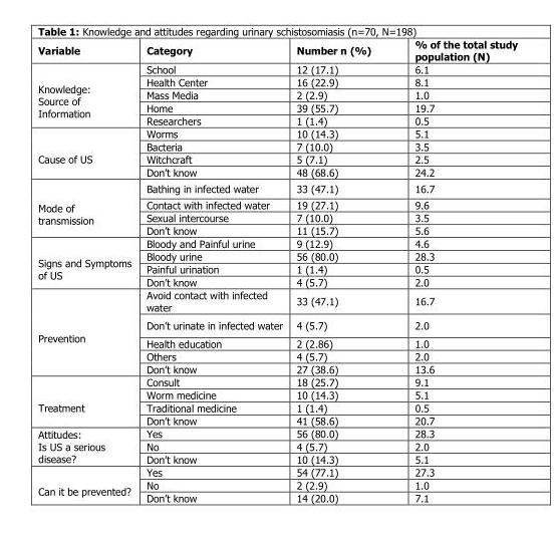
<table><thead><tr><td>Variable</td><td>Category</td><td>Number n (%)</td><td>% of the total study population (N)</td></tr></thead><tbody><tr><td rowspan="5">Knowledge: Source of Information</td><td>School</td><td>12 (17.1)</td><td>6.1</td></tr><tr><td>Health Center</td><td>16 (22.9)</td><td>8.1</td></tr><tr><td>Mass Media</td><td>2 (2.9)</td><td>1.0</td></tr><tr><td>Home</td><td>39 (55.7)</td><td>19.7</td></tr><tr><td>Researchers</td><td>1 (1.4)</td><td>0.5</td></tr><tr><td rowspan="4">Cause of US</td><td>Worms</td><td>10 (14.3)</td><td>5.1</td></tr><tr><td>Bacteria</td><td>7 (10.0)</td><td>3.5</td></tr><tr><td>Witchcraft</td><td>5 (7.1)</td><td>2.5</td></tr><tr><td>Don’t know</td><td>48 (68.6)</td><td>24.2</td></tr><tr><td rowspan="4">Mode of transmission</td><td>Bathing in infected water</td><td>33 (47.1)</td><td>16.7</td></tr><tr><td>Contact with infected water</td><td>19 (27.1)</td><td>9.6</td></tr><tr><td>Sexual intercourse</td><td>7 (10.0)</td><td>3.5</td></tr><tr><td>Don’t know</td><td>11 (15.7)</td><td>5.6</td></tr><tr><td rowspan="4">Signs and Symptoms of US</td><td>Bloody and Painful urine</td><td>9 (12.9)</td><td>4.6</td></tr><tr><td>Bloody urine</td><td>56 (80.0)</td><td>28.3</td></tr><tr><td>Painful urination</td><td>1 (1.4)</td><td>0.5</td></tr><tr><td>Don’t know</td><td>4 (5.7)</td><td>2.0</td></tr><tr><td rowspan="5">Prevention</td><td>Avoid contact with infected water</td><td>33 (47.1)</td><td>16.7</td></tr><tr><td>Don’t urinate in infected water</td><td>4 (5.7)</td><td>2.0</td></tr><tr><td>Health education</td><td>2 (2.86)</td><td>1.0</td></tr><tr><td>Others</td><td>4 (5.7)</td><td>2.0</td></tr><tr><td>Don’t know</td><td>27 (38.6)</td><td>13.6</td></tr><tr><td rowspan="4">Treatment</td><td>Consult</td><td>18 (25.7)</td><td>9.1</td></tr><tr><td>Worm medicine</td><td>10 (14.3)</td><td>5.1</td></tr><tr><td>Traditional medicine</td><td>1 (1.4)</td><td>0.5</td></tr><tr><td>Don’t know</td><td>41 (58.6)</td><td>20.7</td></tr><tr><td rowspan="3">Attitudes: Is US a serious disease?</td><td>Yes</td><td>56 (80.0)</td><td>28.3</td></tr><tr><td>No</td><td>4 (5.7)</td><td>2.0</td></tr><tr><td>Don’t know</td><td>10 (14.3)</td><td>5.1</td></tr><tr><td rowspan="3">Can it be prevented?</td><td>Yes</td><td>54 (77.1)</td><td>27.3</td></tr><tr><td>No</td><td>2 (2.9)</td><td>1.0</td></tr><tr><td>Don’t know</td><td>14 (20.0)</td><td>7.1</td></tr></tbody></table>